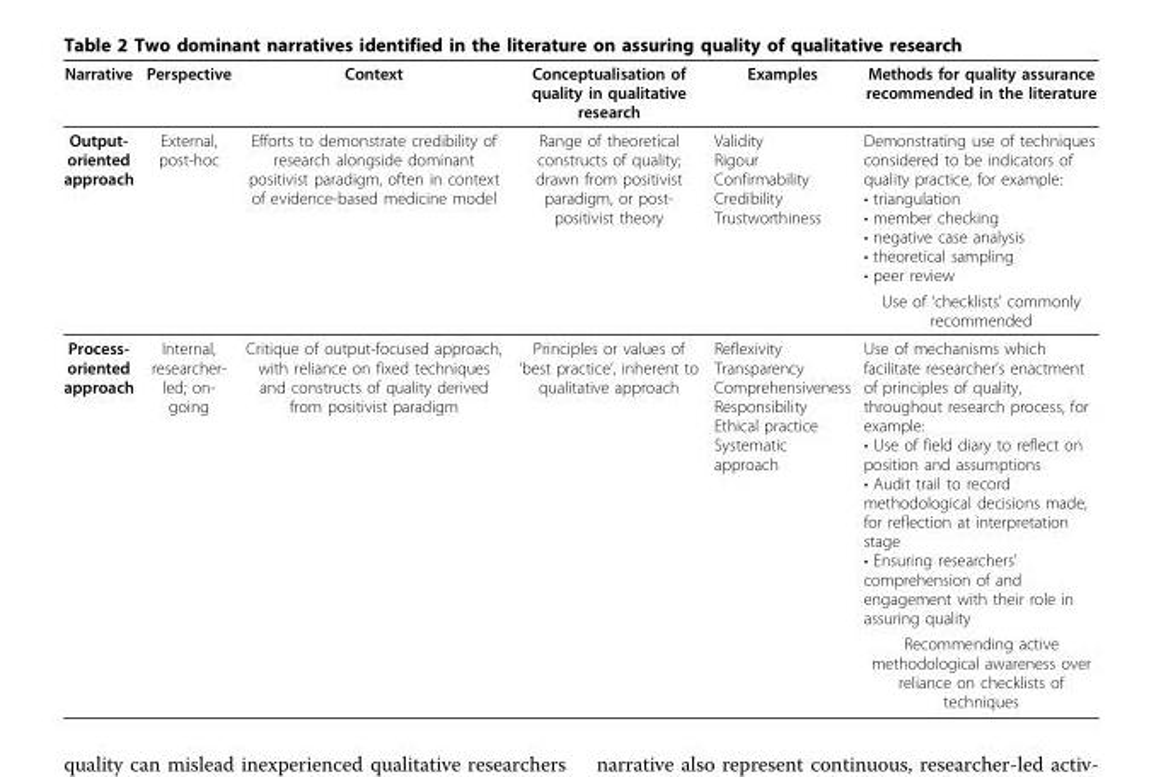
<table><thead><tr><td>Narrative</td><td>Perspective</td><td>Context</td><td>Conceptualisation of quality in qualitative research</td><td>Examples</td><td>Methods for quality assurance recommended in the literature</td></tr></thead><tbody><tr><td rowspan="2">Output- oriented approach</td><td>External, post-hoc</td><td>Efforts to demonstrate credibility of research alongside dominant positivist paradigm, often in context of evidence-based medicine model</td><td>Range of theoretical constructs of quality; drawn from positivist paradigm, or post- positivist theory</td><td>Validity Rigour Confirmability Credibility Trustworthiness</td><td>Demonstrating use of techniques considered to be indicators of quality practice, for example: • triangulation • member checking • negative case analysis • theoretical sampling • peer review</td></tr><tr><td></td><td></td><td></td><td></td><td>Use of ‘checklists’ commonly recommended</td></tr><tr><td rowspan="2">Process- oriented approach</td><td>Internal, researcher- led; on- going</td><td>Critique of output-focused approach, with reliance on fixed techniques and constructs of quality derived from positivist paradigm</td><td>Principles or values of ‘best practice’, inherent to qualitative approach</td><td>Reflexivity Transparency Comprehensiveness Responsibility Ethical practice Systematic approach</td><td>Use of mechanisms which facilitate researcher’s enactment of principles of quality, throughout research process, for example: • Use of field diary to reflect on position and assumptions • Audit trail to record methodological decisions made, for reflection at interpretation stage • Ensuring researchers’ comprehension of and engagement with their role in assuring quality</td></tr><tr><td></td><td></td><td></td><td></td><td>Recommending active methodological awareness over reliance on checklists of techniques</td></tr></tbody></table>